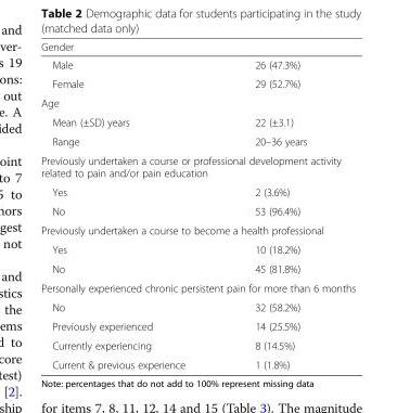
<table><thead><tr><td>Gender</td><td></td></tr></thead><tbody><tr><td>Male</td><td>26 (47.3%)</td></tr><tr><td>Female</td><td>29 (52.7%)</td></tr><tr><td colspan="2">Age</td></tr><tr><td>Mean (±SD) years</td><td>22 (±3.1)</td></tr><tr><td>Range</td><td>20–36 years</td></tr><tr><td colspan="2">Previously undertaken a course or professional development activity related to pain and/or pain education</td></tr><tr><td>Yes</td><td>2 (3.6%)</td></tr><tr><td>No</td><td>53 (96.4%)</td></tr><tr><td colspan="2">Previously undertaken a course to become a health professional</td></tr><tr><td>Yes</td><td>10 (18.2%)</td></tr><tr><td>No</td><td>45 (81.8%)</td></tr><tr><td colspan="2">Personally experienced chronic persistent pain for more than 6 months</td></tr><tr><td>No</td><td>32 (58.2%)</td></tr><tr><td>Previously experienced</td><td>14 (25.5%)</td></tr><tr><td>Currently experiencing</td><td>8 (14.5%)</td></tr><tr><td>Current &amp; previous experience</td><td>1 (1.8%)</td></tr></tbody></table>